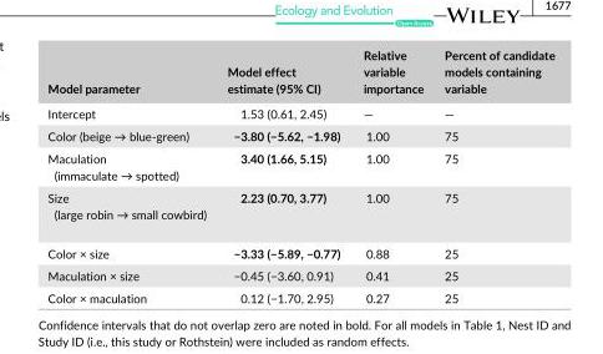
<table><thead><tr><td>Model parameter</td><td>Model effect estimate (95% CI)</td><td>Relative variable importance</td><td>Percent of candidate models containing variable</td></tr></thead><tbody><tr><td>Intercept</td><td>1.53 (0.61, 2.45)</td><td>—</td><td>—</td></tr><tr><td>Color (beige → blue- green)</td><td>−3.80 (−5.62, −1.98)</td><td>1.00</td><td>75</td></tr><tr><td>Maculation (immaculate → spotted)</td><td>3.40 (1.66, 5.15)</td><td>1.00</td><td>75</td></tr><tr><td>Size (large robin → small cowbird)</td><td>2.23 (0.70, 3.77)</td><td>1.00</td><td>75</td></tr><tr><td>Color × size</td><td>−3.33 (−5.89, −0.77)</td><td>0.88</td><td>25</td></tr><tr><td>Maculation × size</td><td>−0.45 (−3.60, 0.91)</td><td>0.41</td><td>25</td></tr><tr><td>Color × maculation</td><td>0.12 (−1.70, 2.95)</td><td>0.27</td><td>25</td></tr></tbody></table>